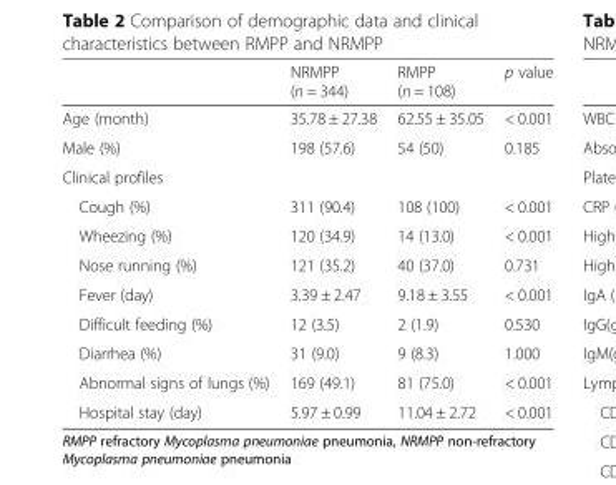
<table><thead><tr><td></td><td>NRMPP (n = 344)</td><td>RMPP (n = 108)</td><td>p value</td></tr></thead><tbody><tr><td>Age (month)</td><td>35.78 ± 27.38</td><td>62.55 ± 35.05</td><td>&lt; 0.001</td></tr><tr><td>Male (%)</td><td>198 (57.6)</td><td>54 (50)</td><td>0.185</td></tr><tr><td colspan="4">Clinical profiles</td></tr><tr><td>Cough (%)</td><td>311 (90.4)</td><td>108 (100)</td><td>&lt; 0.001</td></tr><tr><td>Wheezing (%)</td><td>120 (34.9)</td><td>14 (13.0)</td><td>&lt; 0.001</td></tr><tr><td>Nose running (%)</td><td>121 (35.2)</td><td>40 (37.0)</td><td>0.731</td></tr><tr><td>Fever (day)</td><td>3.39 ± 2.47</td><td>9.18 ± 3.55</td><td>&lt; 0.001</td></tr><tr><td>Difficult feeding (%)</td><td>12 (3.5)</td><td>2 (1.9)</td><td>0.530</td></tr><tr><td>Diarrhea (%)</td><td>31 (9.0)</td><td>9 (8.3)</td><td>1.000</td></tr><tr><td>Abnormal signs of lungs (%)</td><td>169 (49.1)</td><td>81 (75.0)</td><td>&lt; 0.001</td></tr><tr><td>Hospital stay (day)</td><td>5.97 ± 0.99</td><td>11.04 ± 2.72</td><td>&lt; 0.001</td></tr></tbody></table>